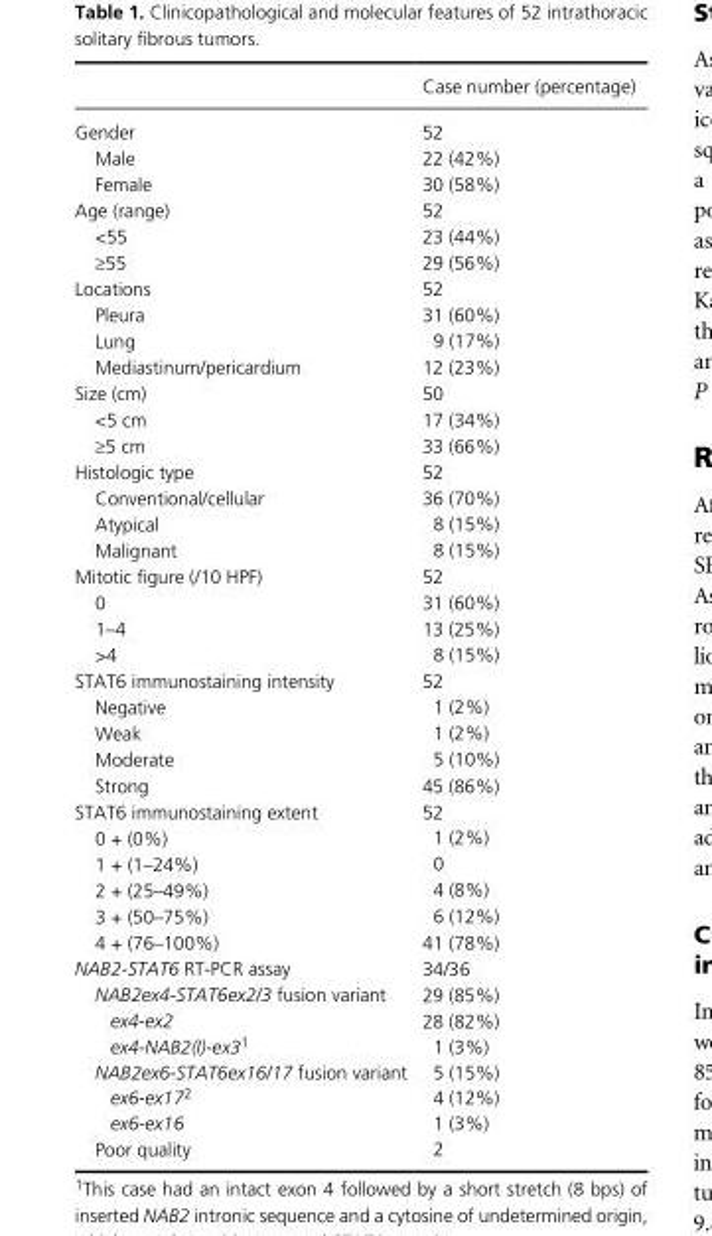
<table><thead><tr><td></td><td>Case number (percentage)</td></tr></thead><tbody><tr><td>Gender</td><td>52</td></tr><tr><td>Male</td><td>22 (42%)</td></tr><tr><td>Female</td><td>30 (58%)</td></tr><tr><td>Age (range)</td><td>52</td></tr><tr><td>&lt;55</td><td>23 (44%)</td></tr><tr><td>≥55</td><td>29 (56%)</td></tr><tr><td>Locations</td><td>52</td></tr><tr><td>Pleura</td><td>31 (60%)</td></tr><tr><td>Lung</td><td>9 (17%)</td></tr><tr><td>Mediastinum/pericardium</td><td>12 (23%)</td></tr><tr><td>Size (cm)</td><td>50</td></tr><tr><td>&lt;5 cm</td><td>17 (34%)</td></tr><tr><td>≥5 cm</td><td>33 (66%)</td></tr><tr><td>Histologic type</td><td>52</td></tr><tr><td>Conventional/cellular</td><td>36 (70%)</td></tr><tr><td>Atypical</td><td>8 (15%)</td></tr><tr><td>Malignant</td><td>8 (15%)</td></tr><tr><td>Mitotic figure (/10 HPF)</td><td>52</td></tr><tr><td>0</td><td>31 (60%)</td></tr><tr><td>1–4</td><td>13 (25%)</td></tr><tr><td>&gt;4</td><td>8 (15%)</td></tr><tr><td>STAT6 immunostaining intensity</td><td>52</td></tr><tr><td>Negative</td><td>1 (2%)</td></tr><tr><td>Weak</td><td>1 (2%)</td></tr><tr><td>Moderate</td><td>5 (10%)</td></tr><tr><td>Strong</td><td>45 (86%)</td></tr><tr><td>STAT6 immunostaining extent</td><td>52</td></tr><tr><td>0 + (0%)</td><td>1 (2%)</td></tr><tr><td>1 + (1–24%)</td><td>0</td></tr><tr><td>2 + (25–49%)</td><td>4 (8%)</td></tr><tr><td>3 + (50–75%)</td><td>6 (12%)</td></tr><tr><td>4 + (76–100%)</td><td>41 (78%)</td></tr><tr><td>NAB2-STAT6 RT- PCR assay</td><td>34/36</td></tr><tr><td>NAB2ex4-STAT6ex2/3 fusion variant</td><td>29 (85%)</td></tr><tr><td>ex4-ex2</td><td>28 (82%)</td></tr><tr><td>ex4-NAB2(I)-ex31</td><td>1 (3%)</td></tr><tr><td>NAB2ex6-STAT6ex16/17 fusion variant</td><td>5 (15%)</td></tr><tr><td>ex6-ex172</td><td>4 (12%)</td></tr><tr><td>ex6-ex16</td><td>1 (3%)</td></tr><tr><td>Poor quality</td><td>2</td></tr></tbody></table>